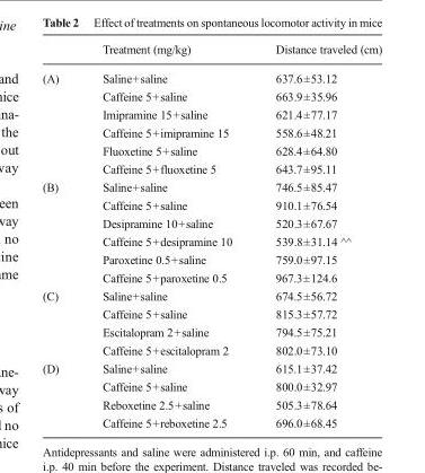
<table><thead><tr><td></td><td>Treatment (mg/kg)</td><td>Distance traveled (cm)</td></tr></thead><tbody><tr><td rowspan="6">(A)</td><td>Saline+saline</td><td>637.6±53.12</td></tr><tr><td>Caffeine 5+saline</td><td>663.9±35.96</td></tr><tr><td>Imipramine 15+saline</td><td>621.4±77.17</td></tr><tr><td>Caffeine 5+imipramine 15</td><td>558.6±48.21</td></tr><tr><td>Fluoxetine 5+saline</td><td>628.4±64.80</td></tr><tr><td>Caffeine 5+fluoxetine 5</td><td>643.7±95.11</td></tr><tr><td rowspan="6">(B)</td><td>Saline+saline</td><td>746.5±85.47</td></tr><tr><td>Caffeine 5+saline</td><td>910.1±76.54</td></tr><tr><td>Desipramine 10+saline</td><td>520.3±67.67</td></tr><tr><td>Caffeine 5+desipramine 10</td><td>539.8±31.14 ^^</td></tr><tr><td>Paroxetine 0.5+saline</td><td>759.0±97.15</td></tr><tr><td>Caffeine 5+paroxetine 0.5</td><td>967.3±124.6</td></tr><tr><td rowspan="4">(C)</td><td>Saline+saline</td><td>674.5±56.72</td></tr><tr><td>Caffeine 5+saline</td><td>815.3±57.72</td></tr><tr><td>Escitalopram 2+saline</td><td>794.5±75.21</td></tr><tr><td>Caffeine 5+escitalopram 2</td><td>802.0±73.10</td></tr><tr><td rowspan="4">(D)</td><td>Saline+saline</td><td>615.1±37.42</td></tr><tr><td>Caffeine 5+saline</td><td>800.0±32.97</td></tr><tr><td>Reboxetine 2.5+saline</td><td>505.3±78.64</td></tr><tr><td>Caffeine 5+reboxetine 2.5</td><td>696.0±68.45</td></tr></tbody></table>